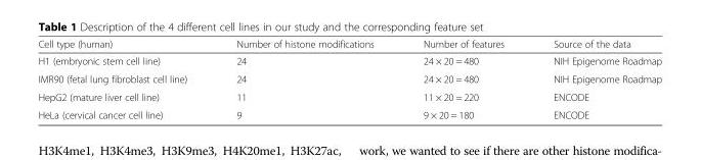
<table><thead><tr><td>Cell type (human)</td><td>Number of histone modifications</td><td>Number of features</td><td>Source of the data</td></tr></thead><tbody><tr><td>H1 (embryonic stem cell line)</td><td>24</td><td>24 × 20 = 480</td><td>NIH Epigenome Roadmap</td></tr><tr><td>IMR90 (fetal lung fibroblast cell line)</td><td>24</td><td>24 × 20 = 480</td><td>NIH Epigenome Roadmap</td></tr><tr><td>HepG2 (mature liver cell line)</td><td>11</td><td>11 × 20 = 220</td><td>ENCODE</td></tr><tr><td>HeLa (cervical cancer cell line)</td><td>9</td><td>9 × 20 = 180</td><td>ENCODE</td></tr></tbody></table>